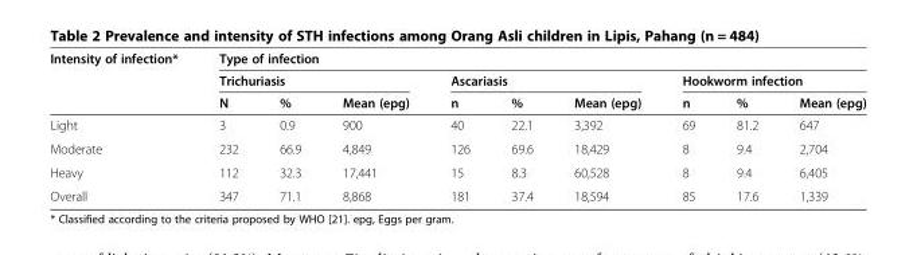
<table><thead><tr><td rowspan="3">Intensity of infection*</td><td colspan="9">Type of infection</td></tr><tr><td colspan="3">Trichuriasis</td><td colspan="3">Ascariasis</td><td colspan="3">Hookworm infection</td></tr><tr><td>N</td><td>%</td><td>Mean (epg)</td><td>n</td><td>%</td><td>Mean (epg)</td><td>n</td><td>%</td><td>Mean (epg)</td></tr></thead><tbody><tr><td>Light</td><td>3</td><td>0.9</td><td>900</td><td>40</td><td>22.1</td><td>3,392</td><td>69</td><td>81.2</td><td>647</td></tr><tr><td>Moderate</td><td>232</td><td>66.9</td><td>4,849</td><td>126</td><td>69.6</td><td>18,429</td><td>8</td><td>9.4</td><td>2,704</td></tr><tr><td>Heavy</td><td>112</td><td>32.3</td><td>17,441</td><td>15</td><td>8.3</td><td>60,528</td><td>8</td><td>9.4</td><td>6,405</td></tr><tr><td>Overall</td><td>347</td><td>71.1</td><td>8,868</td><td>181</td><td>37.4</td><td>18,594</td><td>85</td><td>17.6</td><td>1,339</td></tr></tbody></table>